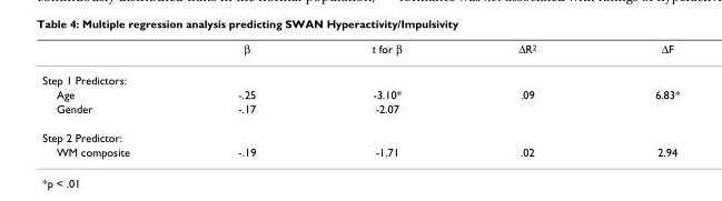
<table><thead><tr><td></td><td>β</td><td>t for β</td><td>ΔR<sup>2</sup></td><td>ΔF</td></tr></thead><tbody><tr><td colspan="5">Step 1 Predictors:</td></tr><tr><td>Age</td><td>-.25</td><td>-3.10*</td><td>.09</td><td>6.83*</td></tr><tr><td>Gender</td><td>-.17</td><td>-2.07</td><td></td><td></td></tr><tr><td colspan="5">Step 2 Predictor:</td></tr><tr><td>WM composite</td><td>-.19</td><td>-1.71</td><td>.02</td><td>2.94</td></tr></tbody></table>